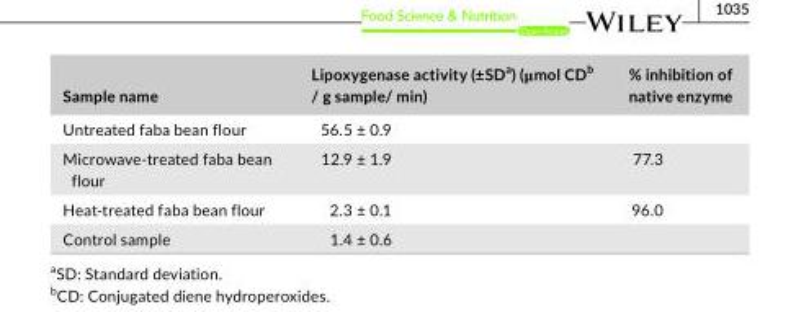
<table><thead><tr><td>Sample name</td><td>Lipoxygenase activity (±SD<sup>a</sup>) (μmol CD<sup>b</sup> / g sample/ min)</td><td>% inhibition of native enzyme</td></tr></thead><tbody><tr><td>Untreated faba bean flour</td><td>56.5 ± 0.9</td><td></td></tr><tr><td>Microwave- treated faba bean flour</td><td>12.9 ± 1.9</td><td>77.3</td></tr><tr><td>Heat- treated faba bean flour</td><td>2.3 ± 0.1</td><td>96.0</td></tr><tr><td>Control sample</td><td>1.4 ± 0.6</td><td></td></tr></tbody></table>